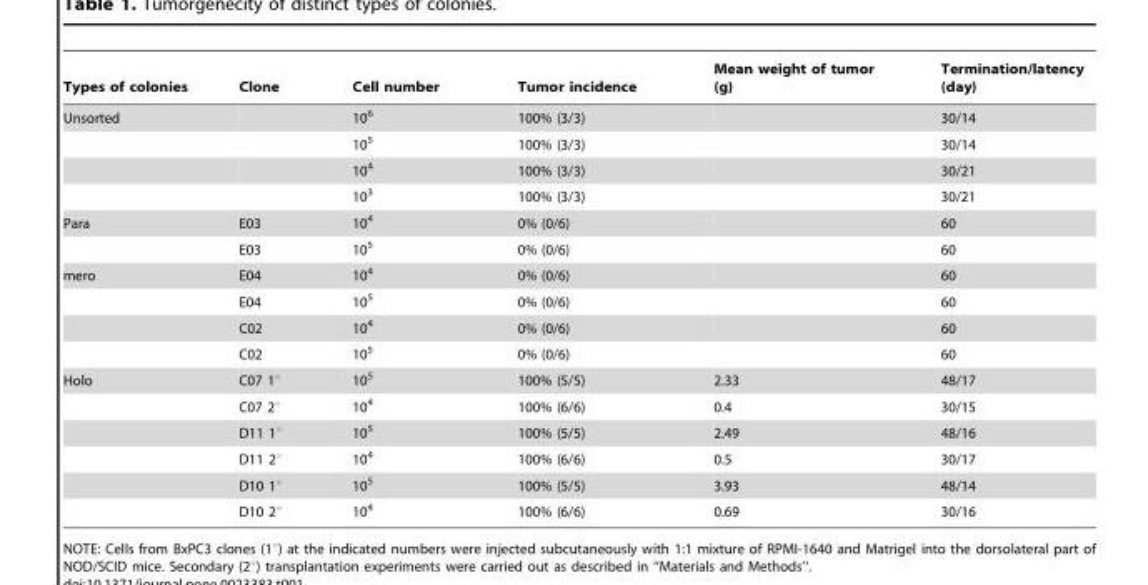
<table><thead><tr><td>Types of colonies</td><td>Clone</td><td>Cell number</td><td>Tumor incidence</td><td>Mean weight of tumor (g)</td><td>Termination/latency (day)</td></tr></thead><tbody><tr><td rowspan="4">Unsorted</td><td></td><td>10<sup>6</sup></td><td>100% (3/3)</td><td></td><td>30/14</td></tr><tr><td></td><td>10<sup>5</sup></td><td>100% (3/3)</td><td></td><td>30/14</td></tr><tr><td></td><td>10<sup>4</sup></td><td>100% (3/3)</td><td></td><td>30/21</td></tr><tr><td></td><td>10<sup>3</sup></td><td>100% (3/3)</td><td></td><td>30/21</td></tr><tr><td rowspan="2">Para</td><td>E03</td><td>10<sup>4</sup></td><td>0% (0/6)</td><td></td><td>60</td></tr><tr><td>E03</td><td>10<sup>5</sup></td><td>0% (0/6)</td><td></td><td>60</td></tr><tr><td rowspan="4">mero</td><td>E04</td><td>10<sup>4</sup></td><td>0% (0/6)</td><td></td><td>60</td></tr><tr><td>E04</td><td>10<sup>5</sup></td><td>0% (0/6)</td><td></td><td>60</td></tr><tr><td>C02</td><td>10<sup>4</sup></td><td>0% (0/6)</td><td></td><td>60</td></tr><tr><td>C02</td><td>10<sup>5</sup></td><td>0% (0/6)</td><td></td><td>60</td></tr><tr><td rowspan="6">Holo</td><td>C07 1°</td><td>10<sup>5</sup></td><td>100% (5/5)</td><td>2.33</td><td>48/17</td></tr><tr><td>C07 2°</td><td>10<sup>4</sup></td><td>100% (6/6)</td><td>0.4</td><td>30/15</td></tr><tr><td>D11 1°</td><td>10<sup>5</sup></td><td>100% (5/5)</td><td>2.49</td><td>48/16</td></tr><tr><td>D11 2°</td><td>10<sup>4</sup></td><td>100% (6/6)</td><td>0.5</td><td>30/17</td></tr><tr><td>D10 1°</td><td>10<sup>5</sup></td><td>100% (5/5)</td><td>3.93</td><td>48/14</td></tr><tr><td>D10 2°</td><td>10<sup>4</sup></td><td>100% (6/6)</td><td>0.69</td><td>30/16</td></tr></tbody></table>